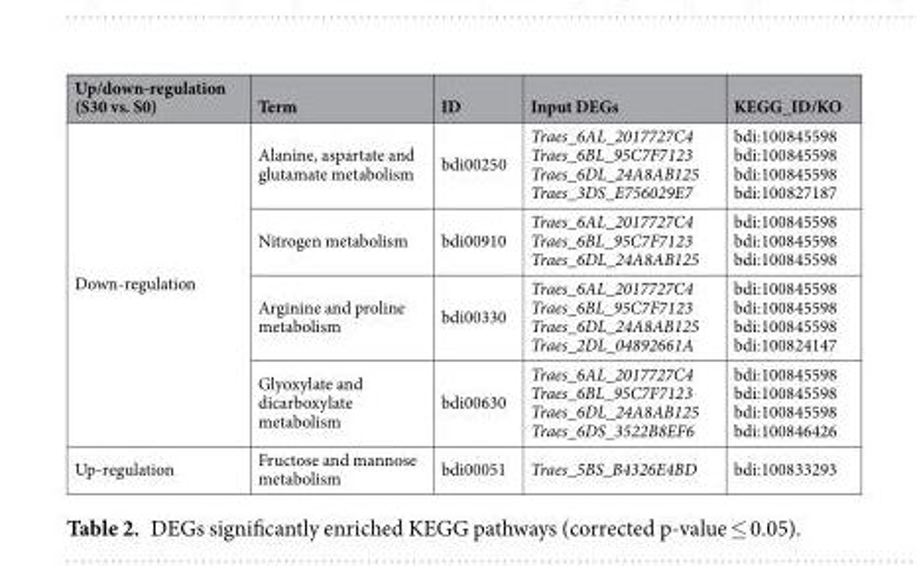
<table><thead><tr><td>Up/down-regulation (S30 vs. S0)</td><td>Term</td><td>ID</td><td>Input DEGs</td><td>KEGG_ID/KO</td></tr></thead><tbody><tr><td rowspan="4">Down-regulation</td><td>Alanine, aspartate and glutamate metabolism</td><td>bdi00250</td><td>Traes_6AL_2017727C4 Traes_6BL_95C7F7123 Traes_6DL_24A8AB125 Traes_3DS_E756029E7</td><td>bdi:100845598 bdi:100845598 bdi:100845598 bdi:100827187</td></tr><tr><td>Nitrogen metabolism</td><td>bdi00910</td><td>Traes_6AL_2017727C4 Traes_6BL_95C7F7123 Traes_6DL_24A8AB125</td><td>bdi:100845598 bdi:100845598 bdi:100845598</td></tr><tr><td>Arginine and proline metabolism</td><td>bdi00330</td><td>Traes_6AL_2017727C4 Traes_6BL_95C7F7123 Traes_6DL_24A8AB125 Traes_2DL_04892661A</td><td>bdi:100845598 bdi:100845598 bdi:100845598 bdi:100824147</td></tr><tr><td>Glyoxylate and dicarboxylate metabolism</td><td>bdi00630</td><td>Traes_6AL_2017727C4 Traes_6BL_95C7F7123 Traes_6DL_24A8AB125 Traes_6DS_3522B8EF6</td><td>bdi:100845598 bdi:100845598 bdi:100845598 bdi:100846426</td></tr><tr><td>Up-regulation</td><td>Fructose and mannose metabolism</td><td>bdi00051</td><td>Traes_5BS_B4326E4BD</td><td>bdi:100833293</td></tr></tbody></table>